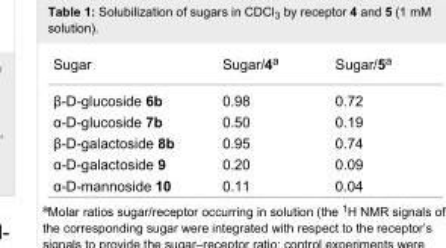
<table><tbody><tr><td>Sugar</td><td>Sugar/4<sup>a</sup></td><td>Sugar/5<sup>a</sup></td></tr><tr><td>β-D-glucoside 6b</td><td>0.98</td><td>0.72</td></tr><tr><td>α-D-glucoside 7b</td><td>0.50</td><td>0.19</td></tr><tr><td>β-D-galactoside 8b</td><td>0.95</td><td>0.74</td></tr><tr><td>α-D-galactoside 9</td><td>0.20</td><td>0.09</td></tr><tr><td>α-D-mannoside 10</td><td>0.11</td><td>0.04</td></tr></tbody></table>